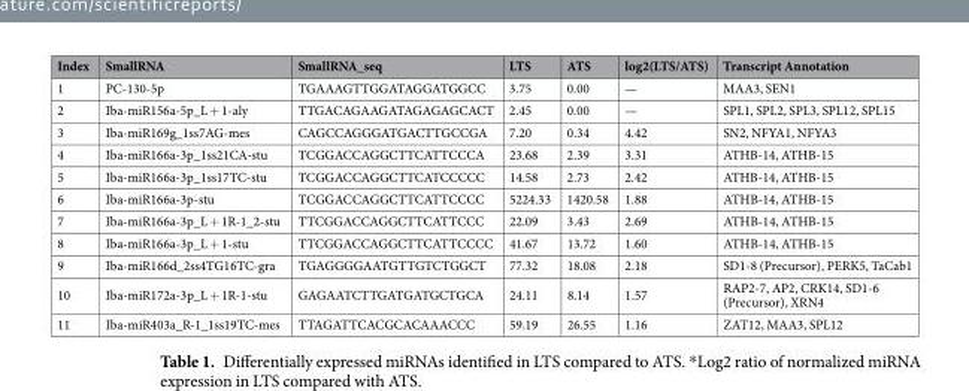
<table><thead><tr><td>Index</td><td>SmallRNA</td><td>SmallRNA_seq</td><td>LTS</td><td>ATS</td><td>log2(LTS/ATS)</td><td>Transcript Annotation</td></tr></thead><tbody><tr><td>1</td><td>PC-130-5p</td><td>TGAAAGTTGGATAGGATGGCC</td><td>3.75</td><td>0.00</td><td>—</td><td>MAA3, SEN1</td></tr><tr><td>2</td><td>Iba-miR156a-5p_L + 1-aly</td><td>TTGACAGAAGATAGAGAGCACT</td><td>2.45</td><td>0.00</td><td>—</td><td>SPL1, SPL2, SPL3, SPL12, SPL15</td></tr><tr><td>3</td><td>Iba-miR169g_1ss7AG-mes</td><td>CAGCCAGGGATGACTTGCCGA</td><td>7.20</td><td>0.34</td><td>4.42</td><td>SN2, NFYA1, NFYA3</td></tr><tr><td>4</td><td>Iba-miR166a-3p_1ss21CA-stu</td><td>TCGGACCAGGCTTCATTCCCA</td><td>23.68</td><td>2.39</td><td>3.31</td><td>ATHB-14, ATHB-15</td></tr><tr><td>5</td><td>Iba-miR166a-3p_1ss17TC-stu</td><td>TCGGACCAGGCTTCATCCCCC</td><td>14.58</td><td>2.73</td><td>2.42</td><td>ATHB-14, ATHB-15</td></tr><tr><td>6</td><td>Iba-miR166a-3p-stu</td><td>TCGGACCAGGCTTCATTCCCC</td><td>5224.33</td><td>1420.58</td><td>1.88</td><td>ATHB-14, ATHB-15</td></tr><tr><td>7</td><td>Iba-miR166a-3p_L + 1R-1_2-stu</td><td>TTCGGACCAGGCTTCATTCCC</td><td>22.09</td><td>3.43</td><td>2.69</td><td>ATHB-14, ATHB-15</td></tr><tr><td>8</td><td>Iba-miR166a-3p_L + 1-stu</td><td>TTCGGACCAGGCTTCATTCCCC</td><td>41.67</td><td>13.72</td><td>1.60</td><td>ATHB-14, ATHB-15</td></tr><tr><td>9</td><td>Iba-miR166d_2ss4TG16TC-gra</td><td>TGAGGGGAATGTTGTCTGGCT</td><td>77.32</td><td>18.08</td><td>2.18</td><td>SD1-8 (Precursor), PERK5, TaCab1</td></tr><tr><td>10</td><td>Iba-miR172a-3p_L + 1R-1-stu</td><td>GAGAATCTTGATGATGCTGCA</td><td>24.11</td><td>8.14</td><td>1.57</td><td>RAP2-7, AP2, CRK14, SD1-6 (Precursor), XRN4</td></tr><tr><td>11</td><td>Iba-miR403a_R-1_1ss19TC-mes</td><td>TTAGATTCACGCACAAACCC</td><td>59.19</td><td>26.55</td><td>1.16</td><td>ZAT12, MAA3, SPL12</td></tr></tbody></table>